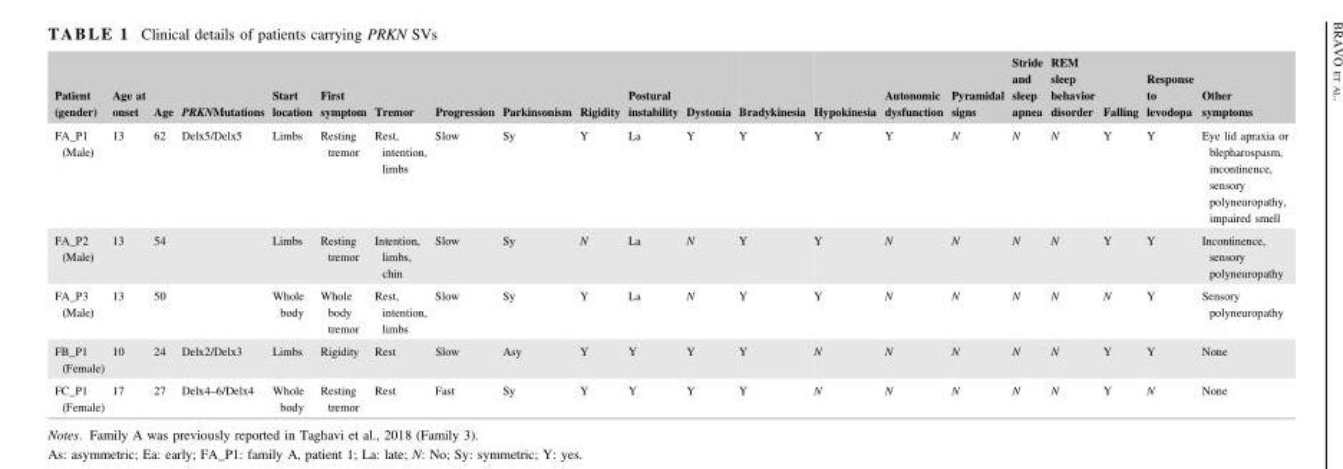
<table><thead><tr><td>Patient (gender)</td><td>Age at onset</td><td>Age</td><td>PRKNMutations</td><td>Start location</td><td>First symptom</td><td>Tremor</td><td>Progression</td><td>Parkinsonism</td><td>Rigidity</td><td>Postural instability</td><td>Dystonia</td><td>Bradykinesia</td><td>Hypokinesia</td><td>Autonomic dysfunction</td><td>Pyramidal signs</td><td>Stride and sleep apnea</td><td>REM sleep behavior disorder</td><td>Falling</td><td>Response to levodopa</td><td>Other symptoms</td></tr></thead><tbody><tr><td>FA_P1 (Male)</td><td>13</td><td>62</td><td>Delx5/Delx5</td><td>Limbs</td><td>Resting tremor</td><td>Rest, intention, limbs</td><td>Slow</td><td>Sy</td><td>Y</td><td>La</td><td>Y</td><td>Y</td><td>Y</td><td>Y</td><td>N</td><td>N</td><td>N</td><td>Y</td><td>Y</td><td>Eye lid apraxia or blepharospasm, incontinence, sensory polyneuropathy, impaired smell</td></tr><tr><td>FA_P2 (Male)</td><td>13</td><td>54</td><td></td><td>Limbs</td><td>Resting tremor</td><td>Intention, limbs, chin</td><td>Slow</td><td>Sy</td><td>N</td><td>La</td><td>N</td><td>Y</td><td>Y</td><td>N</td><td>N</td><td>N</td><td>N</td><td>Y</td><td>Y</td><td>Incontinence, sensory polyneuropathy</td></tr><tr><td>FA_P3 (Male)</td><td>13</td><td>50</td><td></td><td>Whole body</td><td>Whole body tremor</td><td>Rest, intention, limbs</td><td>Slow</td><td>Sy</td><td>Y</td><td>La</td><td>N</td><td>Y</td><td>Y</td><td>N</td><td>N</td><td>N</td><td>N</td><td>N</td><td>Y</td><td>Sensory polyneuropathy</td></tr><tr><td>FB_P1 (Female)</td><td>10</td><td>24</td><td>Delx2/Delx3</td><td>Limbs</td><td>Rigidity</td><td>Rest</td><td>Slow</td><td>Asy</td><td>Y</td><td>Y</td><td>Y</td><td>Y</td><td>N</td><td>N</td><td>N</td><td>N</td><td>N</td><td>Y</td><td>Y</td><td>None</td></tr><tr><td>FC_P1 (Female)</td><td>17</td><td>27</td><td>Delx4–6/Delx4</td><td>Whole body</td><td>Resting tremor</td><td>Rest</td><td>Fast</td><td>Sy</td><td>Y</td><td>Y</td><td>Y</td><td>Y</td><td>N</td><td>N</td><td>N</td><td>N</td><td>N</td><td>Y</td><td>N</td><td>None</td></tr></tbody></table>